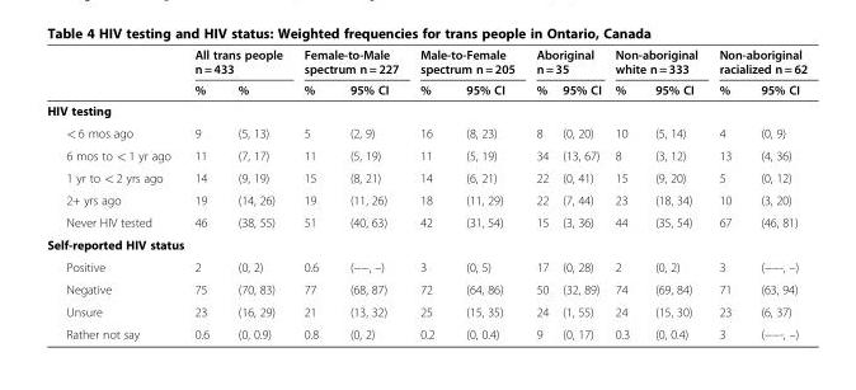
<table><thead><tr><td rowspan="2"></td><td colspan="2">All trans people n = 433</td><td colspan="2">Female-to-Male spectrum n = 227</td><td colspan="2">Male-to-Female spectrum n = 205</td><td colspan="2">Aboriginal n = 35</td><td colspan="2">Non-aboriginal white n = 333</td><td colspan="2">Non-aboriginal racialized n = 62</td></tr><tr><td>%</td><td>%</td><td>%</td><td>95% CI</td><td>%</td><td>95% CI</td><td>%</td><td>95% CI</td><td>%</td><td>95% CI</td><td>%</td><td>95% CI</td></tr></thead><tbody><tr><td colspan="13">HIV testing</td></tr><tr><td>&lt; 6 mos ago</td><td>9</td><td>(5, 13)</td><td>5</td><td>(2, 9)</td><td>16</td><td>(8, 23)</td><td>8</td><td>(0, 20)</td><td>10</td><td>(5, 14)</td><td>4</td><td>(0, 9)</td></tr><tr><td>6 mos to &lt; 1 yr ago</td><td>11</td><td>(7, 17)</td><td>11</td><td>(5, 19)</td><td>11</td><td>(5, 19)</td><td>34</td><td>(13, 67)</td><td>8</td><td>(3, 12)</td><td>13</td><td>(4, 36)</td></tr><tr><td>1 yr to &lt; 2 yrs ago</td><td>14</td><td>(9, 19)</td><td>15</td><td>(8, 21)</td><td>14</td><td>(6, 21)</td><td>22</td><td>(0, 41)</td><td>15</td><td>(9, 20)</td><td>5</td><td>(0, 12)</td></tr><tr><td>2+ yrs ago</td><td>19</td><td>(14, 26)</td><td>19</td><td>(11, 26)</td><td>18</td><td>(11, 29)</td><td>22</td><td>(7, 44)</td><td>23</td><td>(18, 34)</td><td>10</td><td>(3, 20)</td></tr><tr><td>Never HIV tested</td><td>46</td><td>(38, 55)</td><td>51</td><td>(40, 63)</td><td>42</td><td>(31, 54)</td><td>15</td><td>(3, 36)</td><td>44</td><td>(35, 54)</td><td>67</td><td>(46, 81)</td></tr><tr><td colspan="13">Self-reported HIV status</td></tr><tr><td>Positive</td><td>2</td><td>(0, 2)</td><td>0.6</td><td>(−−, –)</td><td>3</td><td>(0, 5)</td><td>17</td><td>(0, 28)</td><td>2</td><td>(0, 2)</td><td>3</td><td>(−−-, –)</td></tr><tr><td>Negative</td><td>75</td><td>(70, 83)</td><td>77</td><td>(68, 87)</td><td>72</td><td>(64, 86)</td><td>50</td><td>(32, 89)</td><td>74</td><td>(69, 84)</td><td>71</td><td>(63, 94)</td></tr><tr><td>Unsure</td><td>23</td><td>(16, 29)</td><td>21</td><td>(13, 32)</td><td>25</td><td>(15, 35)</td><td>24</td><td>(1, 55)</td><td>24</td><td>(15, 30)</td><td>23</td><td>(6, 37)</td></tr><tr><td>Rather not say</td><td>0.6</td><td>(0, 0.9)</td><td>0.8</td><td>(0, 2)</td><td>0.2</td><td>(0, 0.4)</td><td>9</td><td>(0, 17)</td><td>0.3</td><td>(0, 0.4)</td><td>3</td><td>(−−-, –)</td></tr></tbody></table>